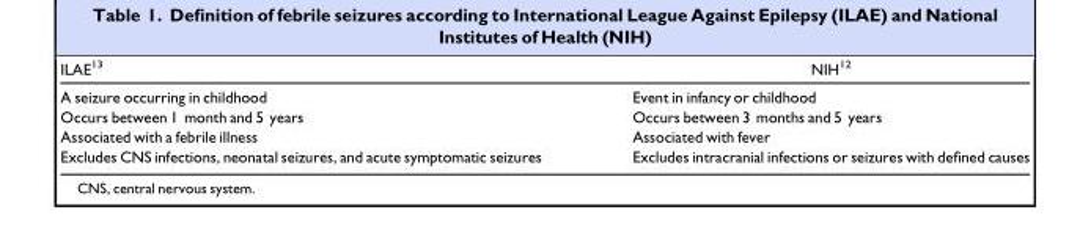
<table><thead><tr><td>ILAE<sup>13</sup></td><td>NIH<sup>12</sup></td></tr></thead><tbody><tr><td>A seizure occurring in childhood</td><td>Event in infancy or childhood</td></tr><tr><td>Occurs between 1 month and 5 years</td><td>Occurs between 3 months and 5 years</td></tr><tr><td>Associated with a febrile illness</td><td>Associated with fever</td></tr><tr><td>Excludes CNS infections, neonatal seizures, and acute symptomatic seizures</td><td>Excludes intracranial infections or seizures with defined causes</td></tr></tbody></table>